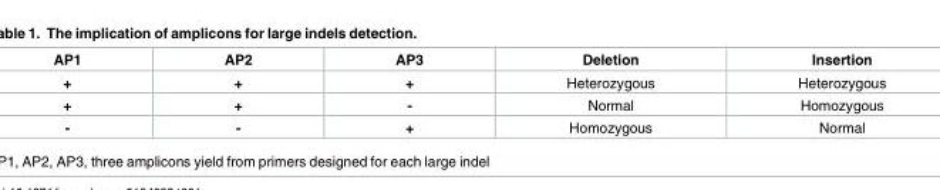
<table><thead><tr><td>AP1</td><td>AP2</td><td>AP3</td><td>Deletion</td><td>Insertion</td></tr></thead><tbody><tr><td>+</td><td>+</td><td>+</td><td>Heterozygous</td><td>Heterozygous</td></tr><tr><td>+</td><td>+</td><td>-</td><td>Normal</td><td>Homozygous</td></tr><tr><td>-</td><td>-</td><td>+</td><td>Homozygous</td><td>Normal</td></tr></tbody></table>